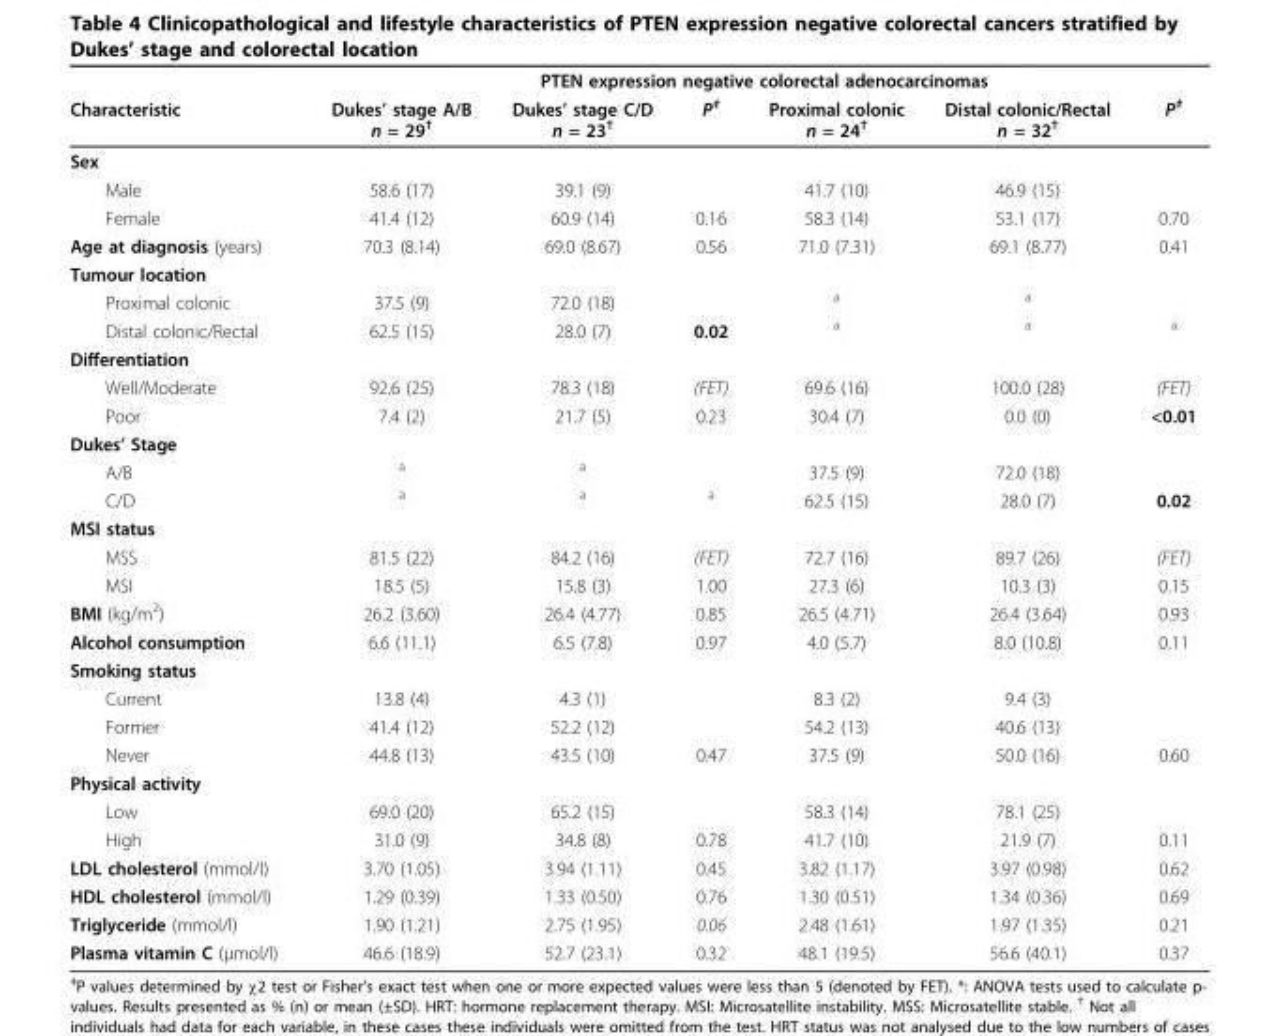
<table><thead><tr><td rowspan="2">Characteristic</td><td colspan="6">PTEN expression negative colorectal adenocarcinomas</td></tr><tr><td>Dukes’ stage A/B n = 29<sup>†</sup></td><td>Dukes’ stage C/D n = 23<sup>†</sup></td><td>P<sup>‡</sup></td><td>Proximal colonic n = 24<sup>†</sup></td><td>Distal colonic/Rectal n = 32<sup>†</sup></td><td>P<sup>‡</sup></td></tr></thead><tbody><tr><td colspan="7">Sex</td></tr><tr><td>Male</td><td>58.6 (17)</td><td>39.1 (9)</td><td></td><td>41.7 (10)</td><td>46.9 (15)</td><td></td></tr><tr><td>Female</td><td>41.4 (12)</td><td>60.9 (14)</td><td>0.16</td><td>58.3 (14)</td><td>53.1 (17)</td><td>0.70</td></tr><tr><td>Age at diagnosis (years)</td><td>70.3 (8.14)</td><td>69.0 (8.67)</td><td>0.56</td><td>71.0 (7.31)</td><td>69.1 (8.77)</td><td>0.41</td></tr><tr><td colspan="7">Tumour location</td></tr><tr><td>Proximal colonic</td><td>37.5 (9)</td><td>72.0 (18)</td><td></td><td><sup>a</sup></td><td><sup>a</sup></td><td></td></tr><tr><td>Distal colonic/Rectal</td><td>62.5 (15)</td><td>28.0 (7)</td><td>0.02</td><td><sup>a</sup></td><td><sup>a</sup></td><td><sup>a</sup></td></tr><tr><td colspan="7">Differentiation</td></tr><tr><td>Well/Moderate</td><td>92.6 (25)</td><td>78.3 (18)</td><td>(FET)</td><td>69.6 (16)</td><td>100.0 (28)</td><td>(FET)</td></tr><tr><td>Poor</td><td>7.4 (2)</td><td>21.7 (5)</td><td>0.23</td><td>30.4 (7)</td><td>0.0 (0)</td><td>&lt;0.01</td></tr><tr><td colspan="7">Dukes’ Stage</td></tr><tr><td>A/B</td><td><sup>a</sup></td><td><sup>a</sup></td><td></td><td>37.5 (9)</td><td>72.0 (18)</td><td></td></tr><tr><td>C/D</td><td><sup>a</sup></td><td><sup>a</sup></td><td><sup>a</sup></td><td>62.5 (15)</td><td>28.0 (7)</td><td>0.02</td></tr><tr><td colspan="7">MSI status</td></tr><tr><td>MSS</td><td>81.5 (22)</td><td>84.2 (16)</td><td>(FET)</td><td>72.7 (16)</td><td>89.7 (26)</td><td>(FET)</td></tr><tr><td>MSI</td><td>18.5 (5)</td><td>15.8 (3)</td><td>1.00</td><td>27.3 (6)</td><td>10.3 (3)</td><td>0.15</td></tr><tr><td>BMI (kg/m<sup>2</sup>)</td><td>26.2 (3.60)</td><td>26.4 (4.77)</td><td>0.85</td><td>26.5 (4.71)</td><td>26.4 (3.64)</td><td>0.93</td></tr><tr><td>Alcohol consumption</td><td>6.6 (11.1)</td><td>6.5 (7.8)</td><td>0.97</td><td>4.0 (5.7)</td><td>8.0 (10.8)</td><td>0.11</td></tr><tr><td colspan="7">Smoking status</td></tr><tr><td>Current</td><td>13.8 (4)</td><td>4.3 (1)</td><td></td><td>8.3 (2)</td><td>9.4 (3)</td><td></td></tr><tr><td>Former</td><td>41.4 (12)</td><td>52.2 (12)</td><td></td><td>54.2 (13)</td><td>40.6 (13)</td><td></td></tr><tr><td>Never</td><td>44.8 (13)</td><td>43.5 (10)</td><td>0.47</td><td>37.5 (9)</td><td>50.0 (16)</td><td>0.60</td></tr><tr><td colspan="7">Physical activity</td></tr><tr><td>Low</td><td>69.0 (20)</td><td>65.2 (15)</td><td></td><td>58.3 (14)</td><td>78.1 (25)</td><td></td></tr><tr><td>High</td><td>31.0 (9)</td><td>34.8 (8)</td><td>0.78</td><td>41.7 (10)</td><td>21.9 (7)</td><td>0.11</td></tr><tr><td>LDL cholesterol (mmol/l)</td><td>3.70 (1.05)</td><td>3.94 (1.11)</td><td>0.45</td><td>3.82 (1.17)</td><td>3.97 (0.98)</td><td>0.62</td></tr><tr><td>HDL cholesterol (mmol/l)</td><td>1.29 (0.39)</td><td>1.33 (0.50)</td><td>0.76</td><td>1.30 (0.51)</td><td>1.34 (0.36)</td><td>0.69</td></tr><tr><td>Triglyceride (mmol/l)</td><td>1.90 (1.21)</td><td>2.75 (1.95)</td><td>0.06</td><td>2.48 (1.61)</td><td>1.97 (1.35)</td><td>0.21</td></tr><tr><td>Plasma vitamin C (μmol/l)</td><td>46.6 (18.9)</td><td>52.7 (23.1)</td><td>0.32</td><td>48.1 (19.5)</td><td>56.6 (40.1)</td><td>0.37</td></tr></tbody></table>